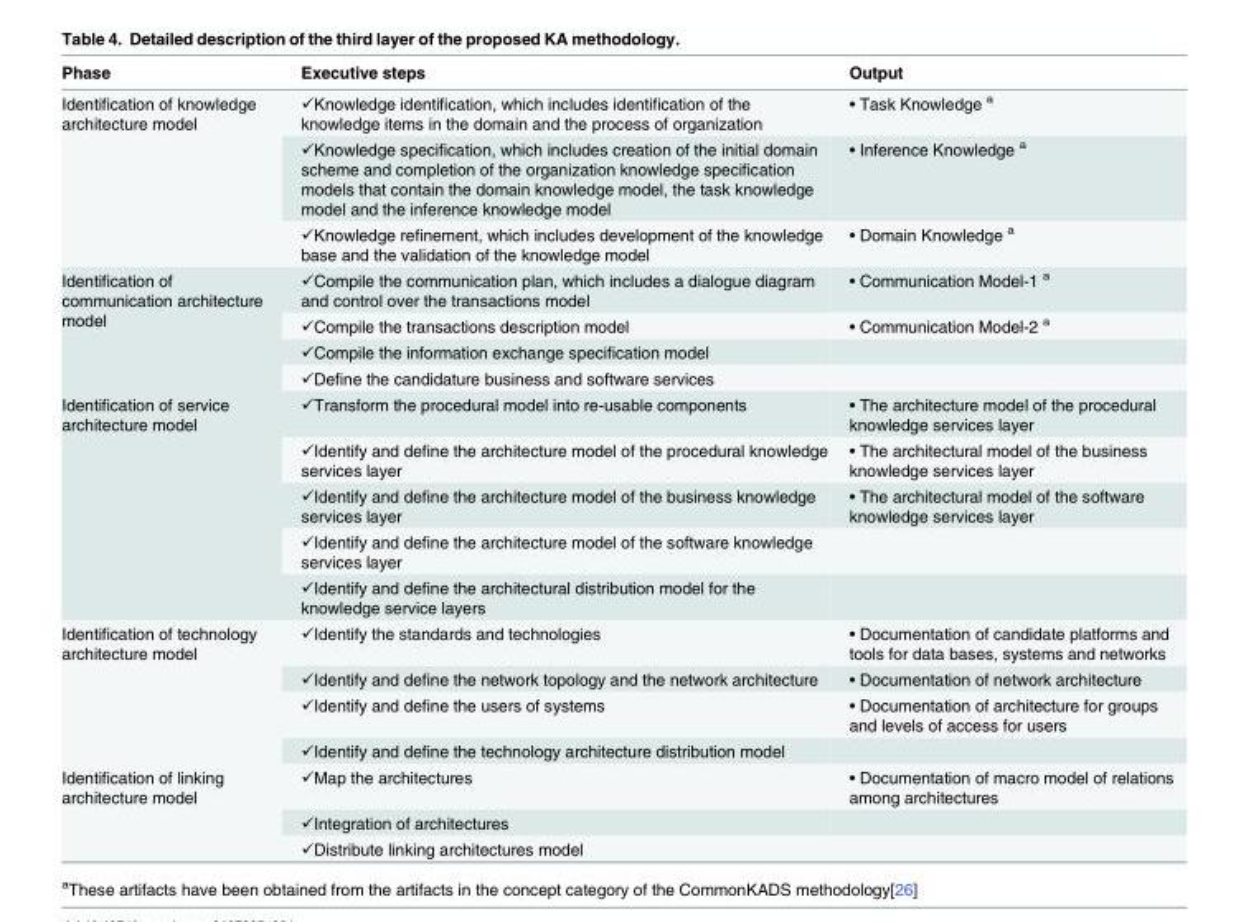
<table><thead><tr><td>Phase</td><td>Executive steps</td><td>Output</td></tr></thead><tbody><tr><td rowspan="3">Identification of knowledge architecture model</td><td>✓Knowledge identification, which includes identification of the knowledge items in the domain and the process of organization</td><td>• Task Knowledge <sup>a</sup></td></tr><tr><td>✓Knowledge specification, which includes creation of the initial domain scheme and completion of the organization knowledge specification models that contain the domain knowledge model, the task knowledge model and the inference knowledge model</td><td>• Inference Knowledge <sup>a</sup></td></tr><tr><td>✓Knowledge refinement, which includes development of the knowledge base and the validation of the knowledge model</td><td>• Domain Knowledge <sup>a</sup></td></tr><tr><td rowspan="4">Identification of communication architecture model</td><td>✓Compile the communication plan, which includes a dialogue diagram and control over the transactions model</td><td>• Communication Model-1 <sup>a</sup></td></tr><tr><td>✓Compile the transactions description model</td><td>• Communication Model-2 <sup>a</sup></td></tr><tr><td>✓Compile the information exchange specification model</td><td></td></tr><tr><td>✓Define the candidature business and software services</td><td></td></tr><tr><td rowspan="5">Identification of service architecture model</td><td>✓Transform the procedural model into re-usable components</td><td>• The architecture model of the procedural knowledge services layer</td></tr><tr><td>✓Identify and define the architecture model of the procedural knowledge services layer</td><td>• The architectural model of the business knowledge services layer</td></tr><tr><td>✓Identify and define the architecture model of the business knowledge services layer</td><td>• The architectural model of the software knowledge services layer</td></tr><tr><td>✓Identify and define the architecture model of the software knowledge services layer</td><td></td></tr><tr><td>✓Identify and define the architectural distribution model for the knowledge service layers</td><td></td></tr><tr><td rowspan="4">Identification of technology architecture model</td><td>✓Identify the standards and technologies</td><td>• Documentation of candidate platforms and tools for data bases, systems and networks</td></tr><tr><td>✓Identify and define the network topology and the network architecture</td><td>• Documentation of network architecture</td></tr><tr><td>✓Identify and define the users of systems</td><td>• Documentation of architecture for groups and levels of access for users</td></tr><tr><td>✓Identify and define the technology architecture distribution model</td><td></td></tr><tr><td rowspan="3">Identification of linking architecture model</td><td>✓Map the architectures</td><td>• Documentation of macro model of relations among architectures</td></tr><tr><td>✓Integration of architectures</td><td></td></tr><tr><td>✓Distribute linking architectures model</td><td></td></tr></tbody></table>